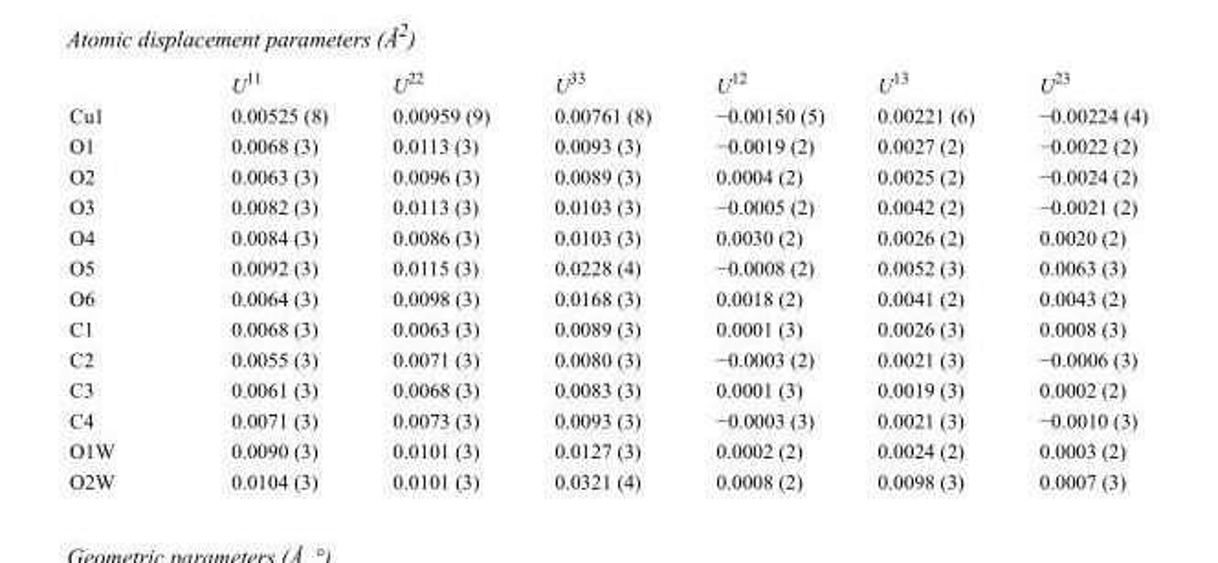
<table><thead><tr><td></td><td>U<sup>11</sup></td><td>U<sup>22</sup></td><td>U<sup>33</sup></td><td>U<sup>12</sup></td><td>U<sup>13</sup></td><td>U<sup>23</sup></td></tr></thead><tbody><tr><td>Cu1</td><td>0.00525 (8)</td><td>0.00959 (9)</td><td>0.00761 (8)</td><td>−0.00150 (5)</td><td>0.00221 (6)</td><td>−0.00224 (4)</td></tr><tr><td>O1</td><td>0.0068 (3)</td><td>0.0113 (3)</td><td>0.0093 (3)</td><td>−0.0019 (2)</td><td>0.0027 (2)</td><td>−0.0022 (2)</td></tr><tr><td>O2</td><td>0.0063 (3)</td><td>0.0096 (3)</td><td>0.0089 (3)</td><td>0.0004 (2)</td><td>0.0025 (2)</td><td>−0.0024 (2)</td></tr><tr><td>O3</td><td>0.0082 (3)</td><td>0.0113 (3)</td><td>0.0103 (3)</td><td>−0.0005 (2)</td><td>0.0042 (2)</td><td>−0.0021 (2)</td></tr><tr><td>O4</td><td>0.0084 (3)</td><td>0.0086 (3)</td><td>0.0103 (3)</td><td>0.0030 (2)</td><td>0.0026 (2)</td><td>0.0020 (2)</td></tr><tr><td>O5</td><td>0.0092 (3)</td><td>0.0115 (3)</td><td>0.0228 (4)</td><td>−0.0008 (2)</td><td>0.0052 (3)</td><td>0.0063 (3)</td></tr><tr><td>O6</td><td>0.0064 (3)</td><td>0.0098 (3)</td><td>0.0168 (3)</td><td>0.0018 (2)</td><td>0.0041 (2)</td><td>0.0043 (2)</td></tr><tr><td>C1</td><td>0.0068 (3)</td><td>0.0063 (3)</td><td>0.0089 (3)</td><td>0.0001 (3)</td><td>0.0026 (3)</td><td>0.0008 (3)</td></tr><tr><td>C2</td><td>0.0055 (3)</td><td>0.0071 (3)</td><td>0.0080 (3)</td><td>−0.0003 (2)</td><td>0.0021 (3)</td><td>−0.0006 (3)</td></tr><tr><td>C3</td><td>0.0061 (3)</td><td>0.0068 (3)</td><td>0.0083 (3)</td><td>0.0001 (3)</td><td>0.0019 (3)</td><td>0.0002 (2)</td></tr><tr><td>C4</td><td>0.0071 (3)</td><td>0.0073 (3)</td><td>0.0093 (3)</td><td>−0.0003 (3)</td><td>0.0021 (3)</td><td>−0.0010 (3)</td></tr><tr><td>O1W</td><td>0.0090 (3)</td><td>0.0101 (3)</td><td>0.0127 (3)</td><td>0.0002 (2)</td><td>0.0024 (2)</td><td>0.0003 (2)</td></tr><tr><td>O2W</td><td>0.0104 (3)</td><td>0.0101 (3)</td><td>0.0321 (4)</td><td>0.0008 (2)</td><td>0.0098 (3)</td><td>0.0007 (3)</td></tr></tbody></table>